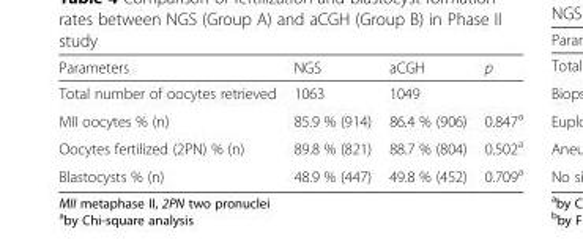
<table><thead><tr><td>Parameters</td><td>NGS</td><td>aCGH</td><td>p</td></tr></thead><tbody><tr><td>Total number of oocytes retrieved</td><td>1063</td><td>1049</td><td></td></tr><tr><td>MII oocytes % (n)</td><td>85.9 % (914)</td><td>86.4 % (906)</td><td>0.847<sup>a</sup></td></tr><tr><td>Oocytes fertilized (2PN) % (n)</td><td>89.8 % (821)</td><td>88.7 % (804)</td><td>0.502<sup>a</sup></td></tr><tr><td>Blastocysts % (n)</td><td>48.9 % (447)</td><td>49.8 % (452)</td><td>0.709<sup>a</sup></td></tr></tbody></table>